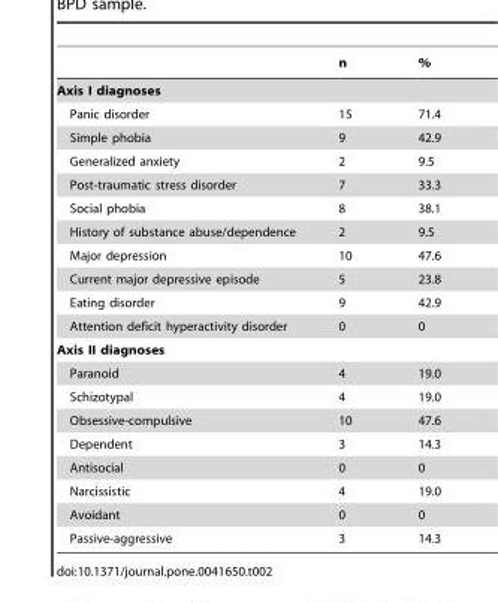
<table><thead><tr><td></td><td>n</td><td>%</td></tr></thead><tbody><tr><td colspan="3">Axis I diagnoses</td></tr><tr><td>Panic disorder</td><td>15</td><td>71.4</td></tr><tr><td>Simple phobia</td><td>9</td><td>42.9</td></tr><tr><td>Generalized anxiety</td><td>2</td><td>9.5</td></tr><tr><td>Post-traumatic stress disorder</td><td>7</td><td>33.3</td></tr><tr><td>Social phobia</td><td>8</td><td>38.1</td></tr><tr><td>History of substance abuse/dependence</td><td>2</td><td>9.5</td></tr><tr><td>Major depression</td><td>10</td><td>47.6</td></tr><tr><td>Current major depressive episode</td><td>5</td><td>23.8</td></tr><tr><td>Eating disorder</td><td>9</td><td>42.9</td></tr><tr><td>Attention deficit hyperactivity disorder</td><td>0</td><td>0</td></tr><tr><td colspan="3">Axis II diagnoses</td></tr><tr><td>Paranoid</td><td>4</td><td>19.0</td></tr><tr><td>Schizotypal</td><td>4</td><td>19.0</td></tr><tr><td>Obsessive-compulsive</td><td>10</td><td>47.6</td></tr><tr><td>Dependent</td><td>3</td><td>14.3</td></tr><tr><td>Antisocial</td><td>0</td><td>0</td></tr><tr><td>Narcissistic</td><td>4</td><td>19.0</td></tr><tr><td>Avoidant</td><td>0</td><td>0</td></tr><tr><td>Passive-aggressive</td><td>3</td><td>14.3</td></tr></tbody></table>